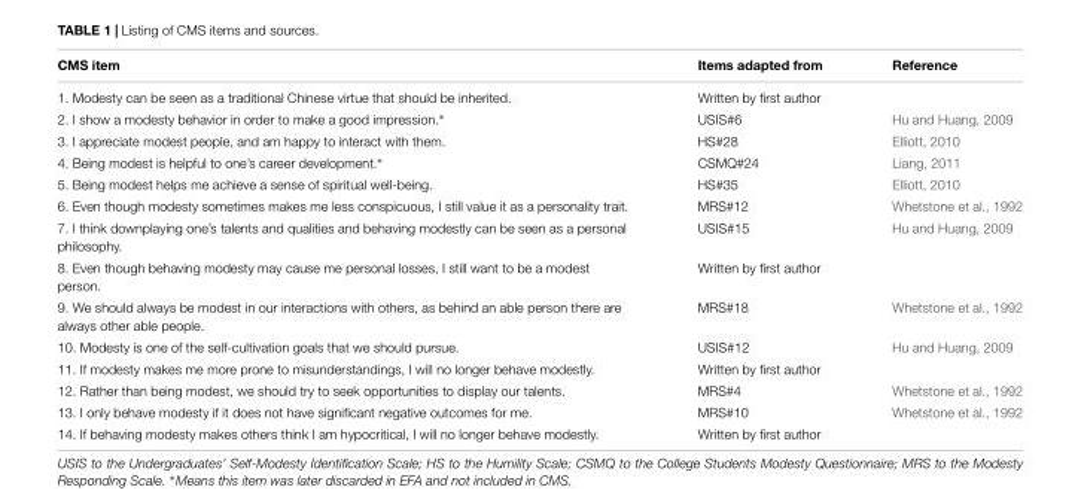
<table><thead><tr><td>CMS item</td><td>Items adapted from</td><td>Reference</td></tr></thead><tbody><tr><td>1. Modesty can be seen as a traditional Chinese virtue that should be inherited.</td><td>Written by first author</td><td></td></tr><tr><td>2. I show a modesty behavior in order to make a good impression.∗</td><td>USIS#6</td><td>Hu and Huang, 2009</td></tr><tr><td>3. I appreciate modest people, and am happy to interact with them.</td><td>HS#28</td><td>Elliott, 2010</td></tr><tr><td>4. Being modest is helpful to one’s career development.∗</td><td>CSMQ#24</td><td>Liang, 2011</td></tr><tr><td>5. Being modest helps me achieve a sense of spiritual well-being.</td><td>HS#35</td><td>Elliott, 2010</td></tr><tr><td>6. Even though modesty sometimes makes me less conspicuous, I still value it as a personality trait.</td><td>MRS#12</td><td>Whetstone et al., 1992</td></tr><tr><td>7. I think downplaying one’s talents and qualities and behaving modestly can be seen as a personal philosophy.</td><td>USIS#15</td><td>Hu and Huang, 2009</td></tr><tr><td>8. Even though behaving modesty may cause me personal losses, I still want to be a modest person.</td><td>Written by first author</td><td></td></tr><tr><td>9. We should always be modest in our interactions with others, as behind an able person there are always other able people.</td><td>MRS#18</td><td>Whetstone et al., 1992</td></tr><tr><td>10. Modesty is one of the self-cultivation goals that we should pursue.</td><td>USIS#12</td><td>Hu and Huang, 2009</td></tr><tr><td>11. If modesty makes me more prone to misunderstandings, I will no longer behave modestly.</td><td>Written by first author</td><td></td></tr><tr><td>12. Rather than being modest, we should try to seek opportunities to display our talents.</td><td>MRS#4</td><td>Whetstone et al., 1992</td></tr><tr><td>13. I only behave modesty if it does not have significant negative outcomes for me.</td><td>MRS#10</td><td>Whetstone et al., 1992</td></tr><tr><td>14. If behaving modesty makes others think I am hypocritical, I will no longer behave modestly.</td><td>Written by first author</td><td></td></tr></tbody></table>